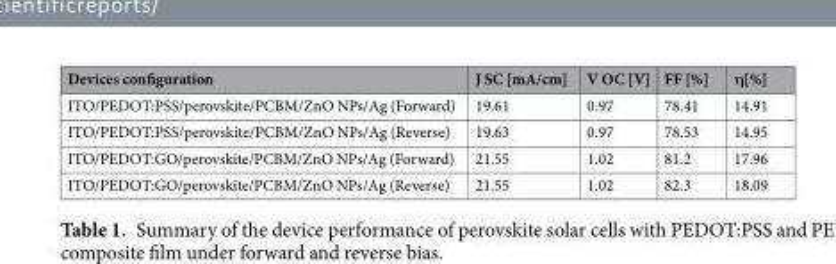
<table><thead><tr><td>Devices configuration</td><td>J SC [mA/cm]</td><td>V OC [V]</td><td>FF [%]</td><td>η[%]</td></tr></thead><tbody><tr><td>ITO/PEDOT:PSS/perovskite/PCBM/ZnO NPs/Ag (Forward)</td><td>19.61</td><td>0.97</td><td>78.41</td><td>14.91</td></tr><tr><td>ITO/PEDOT:PSS/perovskite/PCBM/ZnO NPs/Ag (Reverse)</td><td>19.63</td><td>0.97</td><td>78.53</td><td>14.95</td></tr><tr><td>ITO/PEDOT:GO/perovskite/PCBM/ZnO NPs/Ag (Forward)</td><td>21.55</td><td>1.02</td><td>81.2</td><td>17.96</td></tr><tr><td>ITO/PEDOT:GO/perovskite/PCBM/ZnO NPs/Ag (Reverse)</td><td>21.55</td><td>1.02</td><td>82.3</td><td>18.09</td></tr></tbody></table>